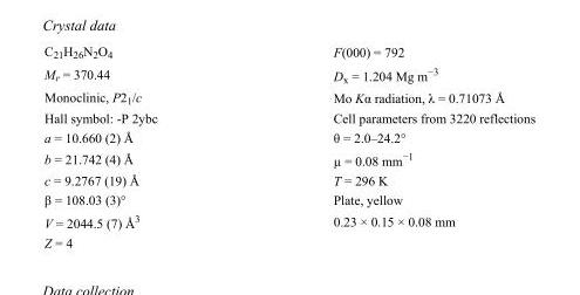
<table><tbody><tr><td>C<sub>21</sub>H<sub>26</sub>N<sub>2</sub>O<sub>4</sub></td><td>F(000) = 792</td></tr><tr><td>M<sub>r</sub> = 370.44</td><td>D<sub>x</sub> = 1.204 Mg m<sup>−3</sup></td></tr><tr><td>Monoclinic, P2<sub>1</sub>/c</td><td>Mo Kα radiation, λ = 0.71073 Å</td></tr><tr><td>Hall symbol: -P 2ybc</td><td>Cell parameters from 3220 reflections</td></tr><tr><td>a = 10.660 (2) Å</td><td>θ = 2.0–24.2°</td></tr><tr><td>b = 21.742 (4) Å</td><td>µ = 0.08 mm<sup>−1</sup></td></tr><tr><td>c = 9.2767 (19) Å</td><td>T = 296 K</td></tr><tr><td>β = 108.03 (3)°</td><td>Plate, yellow</td></tr><tr><td>V = 2044.5 (7) Å<sup>3</sup></td><td>0.23 × 0.15 × 0.08 mm</td></tr><tr><td>Z = 4</td><td></td></tr></tbody></table>